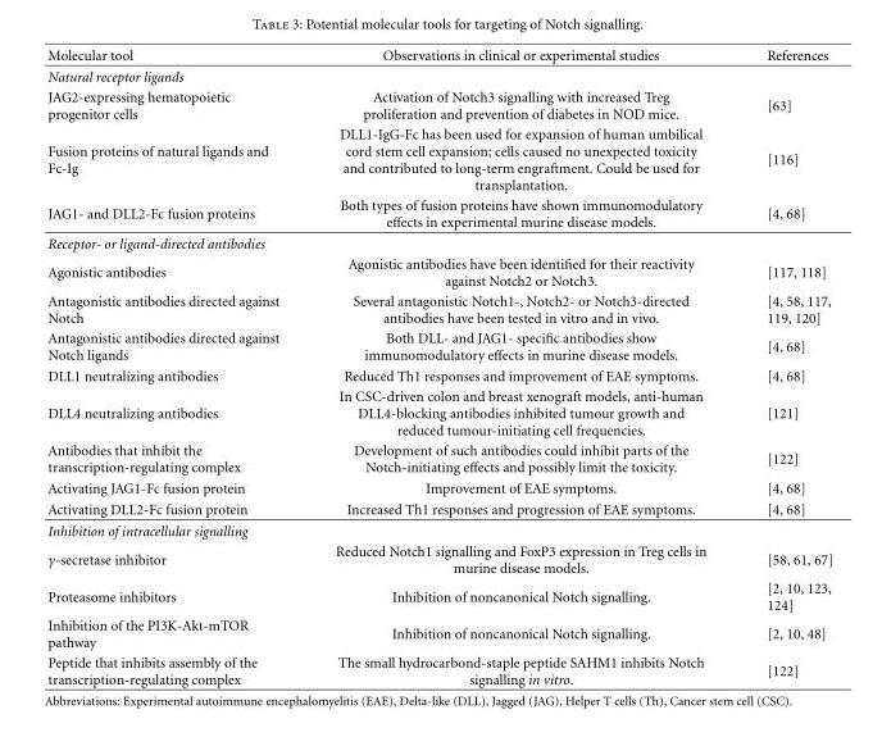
<table><thead><tr><td>Molecular tool</td><td>Observations in clinical or experimental studies</td><td>References</td></tr></thead><tbody><tr><td colspan="3">Natural receptor ligands</td></tr><tr><td>JAG2-expressing hematopoietic progenitor cells</td><td>Activation of Notch3 signalling with increased Treg proliferation and prevention of diabetes in NOD mice.</td><td>[63]</td></tr><tr><td>Fusion proteins of natural ligands and Fc-Ig</td><td>DLL1-IgG-Fc has been used for expansion of human umbilical cord stem cell expansion; cells caused no unexpected toxicity and contributed to long-term engraftment. Could be used for transplantation.</td><td>[116]</td></tr><tr><td>JAG1- and DLL2-Fc fusion proteins</td><td>Both types of fusion proteins have shown immunomodulatory effects in experimental murine disease models.</td><td>[4, 68]</td></tr><tr><td colspan="3">Receptor- or ligand-directed antibodies</td></tr><tr><td>Agonistic antibodies</td><td>Agonistic antibodies have been identified for their reactivity against Notch2 or Notch3.</td><td>[117, 118]</td></tr><tr><td>Antagonistic antibodies directed against Notch</td><td>Several antagonistic Notch1-, Notch2- or Notch3-directed antibodies have been tested in vitro and in vivo.</td><td>[4, 58, 117, 119, 120]</td></tr><tr><td>Antagonistic antibodies directed against Notch ligands</td><td>Both DLL- and JAG1- specific antibodies show immunomodulatory effects in murine disease models.</td><td>[4, 68]</td></tr><tr><td>DLL1 neutralizing antibodies</td><td>Reduced Th1 responses and improvement of EAE symptoms.</td><td>[4, 68]</td></tr><tr><td>DLL4 neutralizing antibodies</td><td>In CSC-driven colon and breast xenograft models, anti-human DLL4-blocking antibodies inhibited tumour growth and reduced tumour-initiating cell frequencies.</td><td>[121]</td></tr><tr><td>Antibodies that inhibit the transcription-regulating complex</td><td>Development of such antibodies could inhibit parts of the Notch-initiating effects and possibly limit the toxicity.</td><td>[122]</td></tr><tr><td>Activating JAG1-Fc fusion protein</td><td>Improvement of EAE symptoms.</td><td>[4, 68]</td></tr><tr><td>Activating DLL2-Fc fusion protein</td><td>Increased Th1 responses and progression of EAE symptoms.</td><td>[4, 68]</td></tr><tr><td colspan="3">Inhibition of intracellular signalling</td></tr><tr><td>γ-secretase inhibitor</td><td>Reduced Notch1 signalling and FoxP3 expression in Treg cells in murine disease models.</td><td>[58, 61, 67]</td></tr><tr><td>Proteasome inhibitors</td><td>Inhibition of noncanonical Notch signalling.</td><td>[2, 10, 123, 124]</td></tr><tr><td>Inhibition of the PI3K-Akt-mTOR pathway</td><td>Inhibition of noncanonical Notch signalling.</td><td>[2, 10, 48]</td></tr><tr><td>Peptide that inhibits assembly of the transcription-regulating complex</td><td>The small hydrocarbond-staple peptide SAHM1 inhibits Notch signalling in vitro.</td><td>[122]</td></tr></tbody></table>